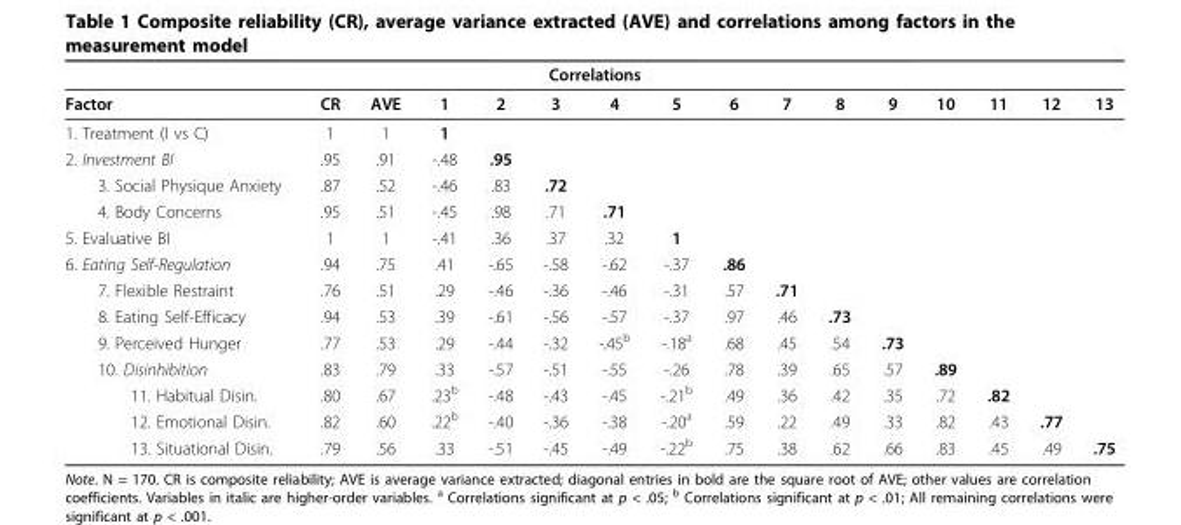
<table><thead><tr><td colspan="16">Correlations</td></tr><tr><td>Factor</td><td>CR</td><td>AVE</td><td>1</td><td>2</td><td>3</td><td>4</td><td>5</td><td>6</td><td>7</td><td>8</td><td>9</td><td>10</td><td>11</td><td>12</td><td>13</td></tr></thead><tbody><tr><td>1. Treatment (I vs C)</td><td>1</td><td>1</td><td>1</td><td></td><td></td><td></td><td></td><td></td><td></td><td></td><td></td><td></td><td></td><td></td><td></td></tr><tr><td>2. Investment BI</td><td>.95</td><td>.91</td><td>-.48</td><td>.95</td><td></td><td></td><td></td><td></td><td></td><td></td><td></td><td></td><td></td><td></td><td></td></tr><tr><td>3. Social Physique Anxiety</td><td>.87</td><td>.52</td><td>-.46</td><td>.83</td><td>.72</td><td></td><td></td><td></td><td></td><td></td><td></td><td></td><td></td><td></td><td></td></tr><tr><td>4. Body Concerns</td><td>.95</td><td>.51</td><td>-.45</td><td>.98</td><td>.71</td><td>.71</td><td></td><td></td><td></td><td></td><td></td><td></td><td></td><td></td><td></td></tr><tr><td>5. Evaluative BI</td><td>1</td><td>1</td><td>-.41</td><td>.36</td><td>.37</td><td>.32</td><td>1</td><td></td><td></td><td></td><td></td><td></td><td></td><td></td><td></td></tr><tr><td>6. Eating Self-Regulation</td><td>.94</td><td>.75</td><td>.41</td><td>-.65</td><td>-.58</td><td>-.62</td><td>-.37</td><td>.86</td><td></td><td></td><td></td><td></td><td></td><td></td><td></td></tr><tr><td>7. Flexible Restraint</td><td>.76</td><td>.51</td><td>.29</td><td>-.46</td><td>-.36</td><td>-.46</td><td>-.31</td><td>.57</td><td>.71</td><td></td><td></td><td></td><td></td><td></td><td></td></tr><tr><td>8. Eating Self-Efficacy</td><td>.94</td><td>.53</td><td>.39</td><td>-.61</td><td>-.56</td><td>-.57</td><td>-.37</td><td>.97</td><td>.46</td><td>.73</td><td></td><td></td><td></td><td></td><td></td></tr><tr><td>9. Perceived Hunger</td><td>.77</td><td>.53</td><td>.29</td><td>-.44</td><td>-.32</td><td>-.45<sup>b</sup></td><td>-.18<sup>a</sup></td><td>.68</td><td>.45</td><td>.54</td><td>.73</td><td></td><td></td><td></td><td></td></tr><tr><td>10. Disinhibition</td><td>.83</td><td>.79</td><td>.33</td><td>-.57</td><td>-.51</td><td>-.55</td><td>-.26</td><td>.78</td><td>.39</td><td>.65</td><td>.57</td><td>.89</td><td></td><td></td><td></td></tr><tr><td>11. Habitual Disin.</td><td>.80</td><td>.67</td><td>.23<sup>b</sup></td><td>-.48</td><td>-.43</td><td>-.45</td><td>-.21<sup>b</sup></td><td>.49</td><td>.36</td><td>.42</td><td>.35</td><td>.72</td><td>.82</td><td></td><td></td></tr><tr><td>12. Emotional Disin.</td><td>.82</td><td>.60</td><td>.22<sup>b</sup></td><td>-.40</td><td>-.36</td><td>-.38</td><td>-.20<sup>a</sup></td><td>.59</td><td>.22</td><td>.49</td><td>.33</td><td>.82</td><td>.43</td><td>.77</td><td></td></tr><tr><td>13. Situational Disin.</td><td>.79</td><td>.56</td><td>.33</td><td>-.51</td><td>-.45</td><td>-.49</td><td>-.22<sup>b</sup></td><td>.75</td><td>.38</td><td>.62</td><td>.66</td><td>.83</td><td>.45</td><td>.49</td><td>.75</td></tr></tbody></table>